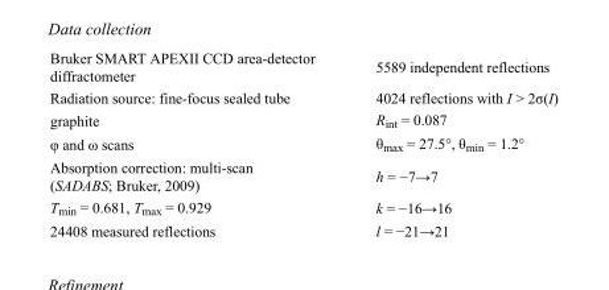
<table><tbody><tr><td>Bruker SMART APEXII CCD area-detector diffractometer</td><td>5589 independent reflections</td></tr><tr><td>Radiation source: fine-focus sealed tube</td><td>4024 reflections with I &gt; 2σ(I)</td></tr><tr><td>graphite</td><td>R<sub>int</sub> = 0.087</td></tr><tr><td>φ and ω scans</td><td>θ<sub>max</sub> = 27.5°, θ<sub>min</sub> = 1.2°</td></tr><tr><td>Absorption correction: multi-scan (SADABS; Bruker, 2009)</td><td>h = −7→7</td></tr><tr><td>T<sub>min</sub> = 0.681, T<sub>max</sub> = 0.929</td><td>k = −16→16</td></tr><tr><td>24408 measured reflections</td><td>l = −21→21</td></tr></tbody></table>